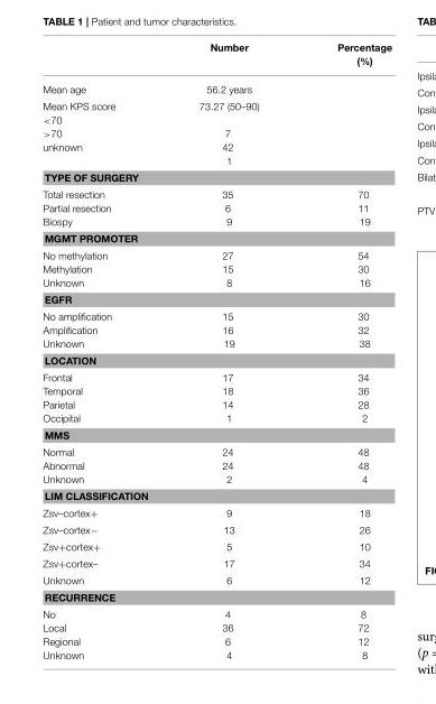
<table><thead><tr><td></td><td>Number</td><td>Percentage (%)</td></tr></thead><tbody><tr><td>Mean age</td><td>56.2 years</td><td></td></tr><tr><td>Mean KPS score &lt;70 &gt;70 unknown</td><td>73.27 (50–90) 7 42 1</td><td></td></tr><tr><td colspan="3">TYPE OF SURGERY</td></tr><tr><td>Total resection Partial resection Biospy</td><td>35 6 9</td><td>70 11 19</td></tr><tr><td colspan="3">MGMT PROMOTER</td></tr><tr><td>No methylation Methylation Unknown</td><td>27 15 8</td><td>54 30 16</td></tr><tr><td colspan="3">EGFR</td></tr><tr><td>No amplification Amplification Unknown</td><td>15 16 19</td><td>30 32 38</td></tr><tr><td colspan="3">LOCATION</td></tr><tr><td>Frontal Temporal Parietal Occipital</td><td>17 18 14 1</td><td>34 36 28 2</td></tr><tr><td colspan="3">MMS</td></tr><tr><td>Normal Abnormal Unknown</td><td>24 24 2</td><td>48 48 4</td></tr><tr><td colspan="3">LIM CLASSIFICATION</td></tr><tr><td>Zsv–cortex+</td><td>9</td><td>18</td></tr><tr><td>Zsv–cortex−</td><td>13</td><td>26</td></tr><tr><td>Zsv+cortex+</td><td>5</td><td>10</td></tr><tr><td>Zsv+cortex–</td><td>17</td><td>34</td></tr><tr><td>Unknown</td><td>6</td><td>12</td></tr><tr><td colspan="3">RECURRENCE</td></tr><tr><td>No Local Regional Unknown</td><td>4 36 6 4</td><td>8 72 12 8</td></tr></tbody></table>